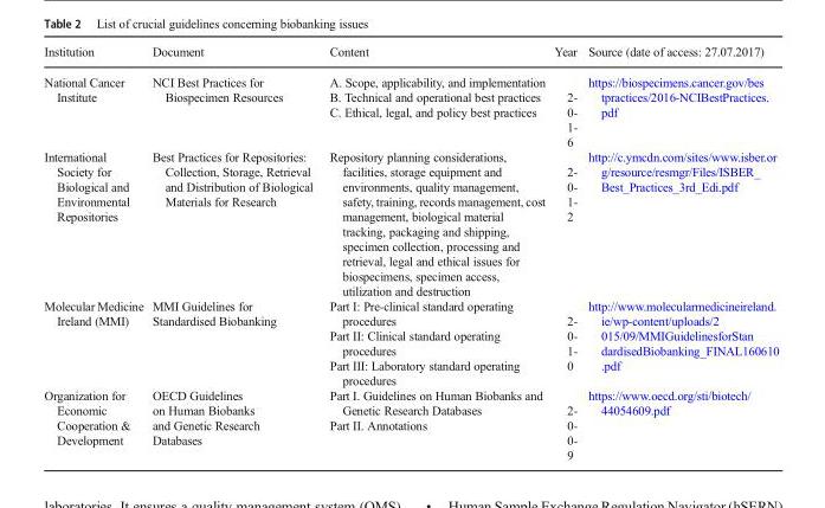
<table><thead><tr><td>Institution</td><td>Document</td><td>Content</td><td>Year</td><td>Source (date of access: 27.07.2017)</td></tr></thead><tbody><tr><td>National Cancer Institute</td><td>NCI Best Practices for Biospecimen Resources</td><td>A. Scope, applicability, and implementation B. Technical and operational best practices C. Ethical, legal, and policy best practices</td><td>2- 0- 1- 6</td><td>https://biospecimens.cancer.gov/bes tpractices/2016-NCIBestPractices. pdf</td></tr><tr><td>International Society for Biological and Environmental Repositories</td><td>Best Practices for Repositories: Collection, Storage, Retrieval and Distribution of Biological Materials for Research</td><td>Repository planning considerations, facilities, storage equipment and environments, quality management, safety, training, records management, cost management, biological material tracking, packaging and shipping, specimen collection, processing and retrieval, legal and ethical issues for biospecimens, specimen access, utilization and destruction</td><td>2- 0- 1- 2</td><td>http://c.ymcdn.com/sites/www.isber.or g/resource/resmgr/Files/ISBER_ Best_Practices_3rd_Edi.pdf</td></tr><tr><td>Molecular Medicine Ireland (MMI)</td><td>MMI Guidelines for Standardised Biobanking</td><td>Part I: Pre-clinical standard operating procedures Part II: Clinical standard operating procedures Part III: Laboratory standard operating procedures</td><td>2- 0- 1- 0</td><td>http://www.molecularmedicineireland. ie/wp-content/uploads/2 015/09/MMIGuidelinesforStan dardisedBiobanking_FINAL160610 .pdf</td></tr><tr><td>Organization for Economic Cooperation &amp; Development</td><td>OECD Guidelines on Human Biobanks and Genetic Research Databases</td><td>Part I. Guidelines on Human Biobanks and Genetic Research Databases Part II. Annotations</td><td>2- 0- 0- 9</td><td>https://www.oecd.org/sti/biotech/ 44054609.pdf</td></tr></tbody></table>